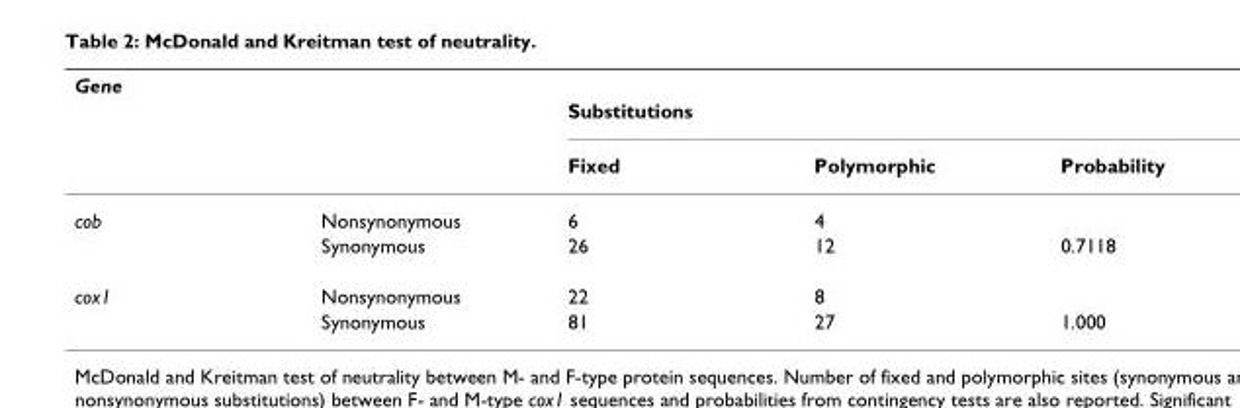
<table><thead><tr><td rowspan="3">Gene</td><td rowspan="3"></td><td></td><td></td><td></td></tr><tr><td colspan="3">Substitutions</td></tr><tr><td>Fixed</td><td>Polymorphic</td><td>Probability</td></tr></thead><tbody><tr><td rowspan="2">cob</td><td>Nonsynonymous</td><td>6</td><td>4</td><td></td></tr><tr><td>Synonymous</td><td>26</td><td>12</td><td>0.7118</td></tr><tr><td rowspan="2">cox1</td><td>Nonsynonymous</td><td>22</td><td>8</td><td></td></tr><tr><td>Synonymous</td><td>81</td><td>27</td><td>1.000</td></tr></tbody></table>